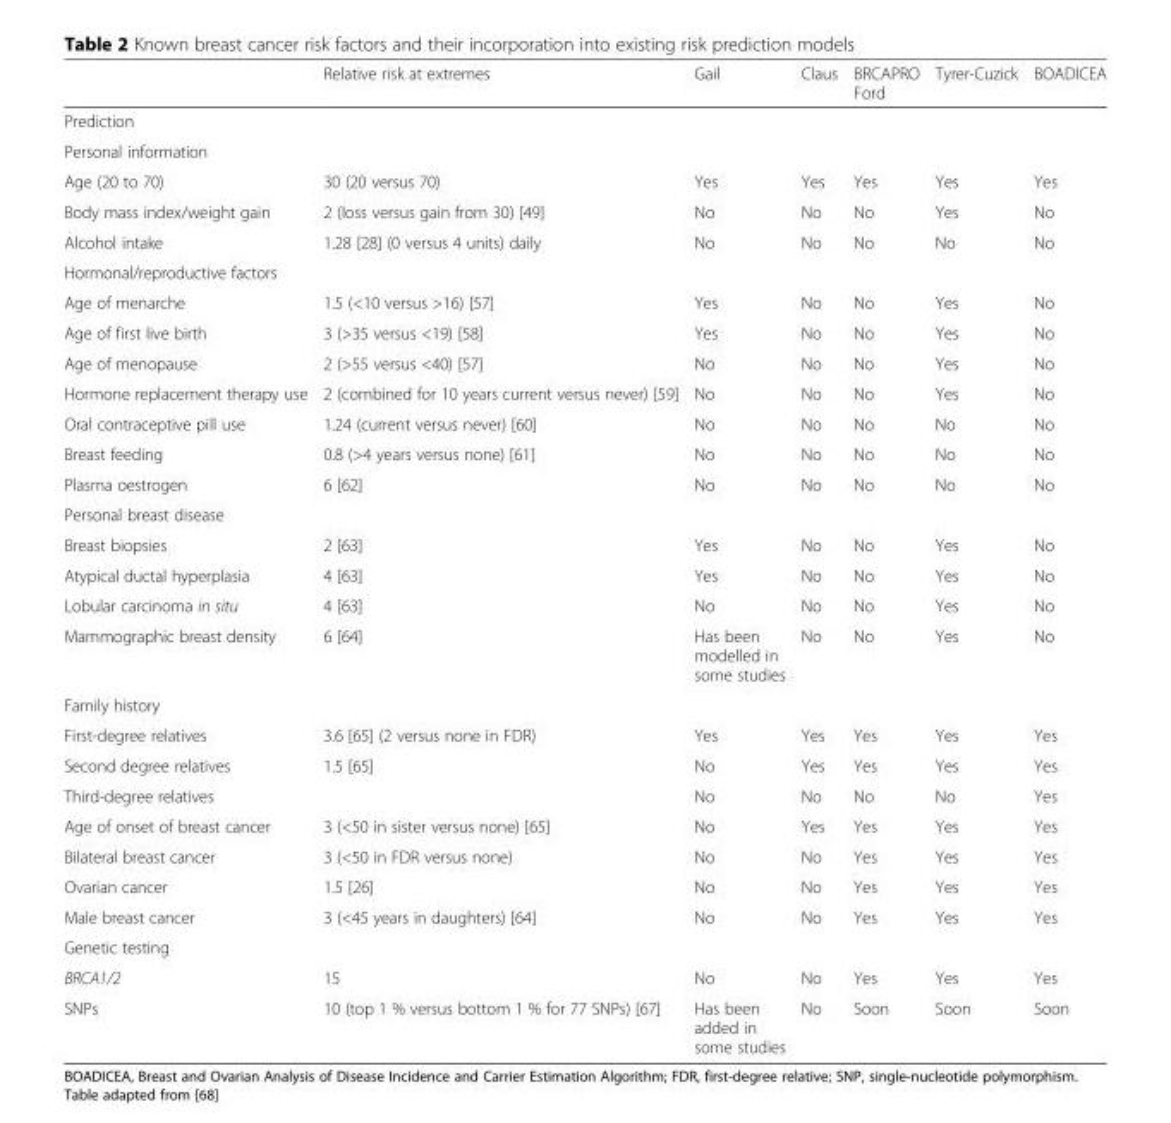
<table><thead><tr><td></td><td>Relative risk at extremes</td><td>Gail</td><td>Claus</td><td>BRCAPRO Ford</td><td>Tyrer-Cuzick</td><td>BOADICEA</td></tr></thead><tbody><tr><td colspan="7">Prediction</td></tr><tr><td colspan="7">Personal information</td></tr><tr><td>Age (20 to 70)</td><td>30 (20 versus 70)</td><td>Yes</td><td>Yes</td><td>Yes</td><td>Yes</td><td>Yes</td></tr><tr><td>Body mass index/weight gain</td><td>2 (loss versus gain from 30) [49]</td><td>No</td><td>No</td><td>No</td><td>Yes</td><td>No</td></tr><tr><td>Alcohol intake</td><td>1.28 [28] (0 versus 4 units) daily</td><td>No</td><td>No</td><td>No</td><td>No</td><td>No</td></tr><tr><td colspan="7">Hormonal/reproductive factors</td></tr><tr><td>Age of menarche</td><td>1.5 (&lt;10 versus &gt;16) [57]</td><td>Yes</td><td>No</td><td>No</td><td>Yes</td><td>No</td></tr><tr><td>Age of first live birth</td><td>3 (&gt;35 versus &lt;19) [58]</td><td>Yes</td><td>No</td><td>No</td><td>Yes</td><td>No</td></tr><tr><td>Age of menopause</td><td>2 (&gt;55 versus &lt;40) [57]</td><td>No</td><td>No</td><td>No</td><td>Yes</td><td>No</td></tr><tr><td>Hormone replacement therapy use</td><td>2 (combined for 10 years current versus never) [59]</td><td>No</td><td>No</td><td>No</td><td>Yes</td><td>No</td></tr><tr><td>Oral contraceptive pill use</td><td>1.24 (current versus never) [60]</td><td>No</td><td>No</td><td>No</td><td>No</td><td>No</td></tr><tr><td>Breast feeding</td><td>0.8 (&gt;4 years versus none) [61]</td><td>No</td><td>No</td><td>No</td><td>No</td><td>No</td></tr><tr><td>Plasma oestrogen</td><td>6 [62]</td><td>No</td><td>No</td><td>No</td><td>No</td><td>No</td></tr><tr><td colspan="7">Personal breast disease</td></tr><tr><td>Breast biopsies</td><td>2 [63]</td><td>Yes</td><td>No</td><td>No</td><td>Yes</td><td>No</td></tr><tr><td>Atypical ductal hyperplasia</td><td>4 [63]</td><td>Yes</td><td>No</td><td>No</td><td>Yes</td><td>No</td></tr><tr><td>Lobular carcinoma in situ</td><td>4 [63]</td><td>No</td><td>No</td><td>No</td><td>Yes</td><td>No</td></tr><tr><td>Mammographic breast density</td><td>6 [64]</td><td>Has been modelled in some studies</td><td>No</td><td>No</td><td>Yes</td><td>No</td></tr><tr><td colspan="7">Family history</td></tr><tr><td>First-degree relatives</td><td>3.6 [65] (2 versus none in FDR)</td><td>Yes</td><td>Yes</td><td>Yes</td><td>Yes</td><td>Yes</td></tr><tr><td>Second degree relatives</td><td>1.5 [65]</td><td>No</td><td>Yes</td><td>Yes</td><td>Yes</td><td>Yes</td></tr><tr><td>Third-degree relatives</td><td></td><td>No</td><td>No</td><td>No</td><td>No</td><td>Yes</td></tr><tr><td>Age of onset of breast cancer</td><td>3 (&lt;50 in sister versus none) [65]</td><td>No</td><td>Yes</td><td>Yes</td><td>Yes</td><td>Yes</td></tr><tr><td>Bilateral breast cancer</td><td>3 (&lt;50 in FDR versus none)</td><td>No</td><td>No</td><td>Yes</td><td>Yes</td><td>Yes</td></tr><tr><td>Ovarian cancer</td><td>1.5 [26]</td><td>No</td><td>No</td><td>Yes</td><td>Yes</td><td>Yes</td></tr><tr><td>Male breast cancer</td><td>3 (&lt;45 years in daughters) [64]</td><td>No</td><td>No</td><td>Yes</td><td>Yes</td><td>Yes</td></tr><tr><td colspan="7">Genetic testing</td></tr><tr><td>BRCA1/2</td><td>15</td><td>No</td><td>No</td><td>Yes</td><td>Yes</td><td>Yes</td></tr><tr><td>SNPs</td><td>10 (top 1 % versus bottom 1 % for 77 SNPs) [67]</td><td>Has been added in some studies</td><td>No</td><td>Soon</td><td>Soon</td><td>Soon</td></tr></tbody></table>